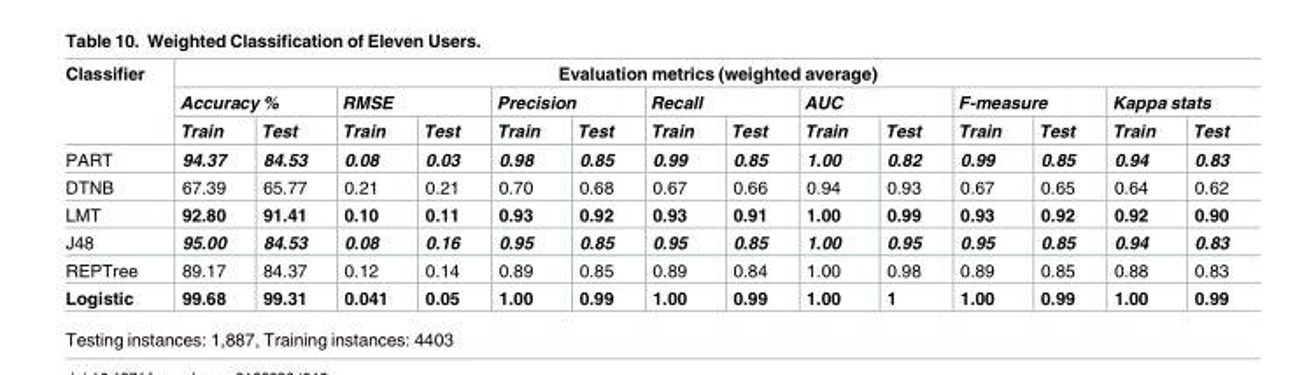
<table><thead><tr><td rowspan="3">Classifier</td><td colspan="14">Evaluation metrics (weighted average)</td></tr><tr><td colspan="2">Accuracy %</td><td colspan="2">RMSE</td><td colspan="2">Precision</td><td colspan="2">Recall</td><td colspan="2">AUC</td><td colspan="2">F-measure</td><td colspan="2">Kappa stats</td></tr><tr><td>Train</td><td>Test</td><td>Train</td><td>Test</td><td>Train</td><td>Test</td><td>Train</td><td>Test</td><td>Train</td><td>Test</td><td>Train</td><td>Test</td><td>Train</td><td>Test</td></tr></thead><tbody><tr><td>PART</td><td>94.37</td><td>84.53</td><td>0.08</td><td>0.03</td><td>0.98</td><td>0.85</td><td>0.99</td><td>0.85</td><td>1.00</td><td>0.82</td><td>0.99</td><td>0.85</td><td>0.94</td><td>0.83</td></tr><tr><td>DTNB</td><td>67.39</td><td>65.77</td><td>0.21</td><td>0.21</td><td>0.70</td><td>0.68</td><td>0.67</td><td>0.66</td><td>0.94</td><td>0.93</td><td>0.67</td><td>0.65</td><td>0.64</td><td>0.62</td></tr><tr><td>LMT</td><td>92.80</td><td>91.41</td><td>0.10</td><td>0.11</td><td>0.93</td><td>0.92</td><td>0.93</td><td>0.91</td><td>1.00</td><td>0.99</td><td>0.93</td><td>0.92</td><td>0.92</td><td>0.90</td></tr><tr><td>J48</td><td>95.00</td><td>84.53</td><td>0.08</td><td>0.16</td><td>0.95</td><td>0.85</td><td>0.95</td><td>0.85</td><td>1.00</td><td>0.95</td><td>0.95</td><td>0.85</td><td>0.94</td><td>0.83</td></tr><tr><td>REPTree</td><td>89.17</td><td>84.37</td><td>0.12</td><td>0.14</td><td>0.89</td><td>0.85</td><td>0.89</td><td>0.84</td><td>1.00</td><td>0.98</td><td>0.89</td><td>0.85</td><td>0.88</td><td>0.83</td></tr><tr><td>Logistic</td><td>99.68</td><td>99.31</td><td>0.041</td><td>0.05</td><td>1.00</td><td>0.99</td><td>1.00</td><td>0.99</td><td>1.00</td><td>1</td><td>1.00</td><td>0.99</td><td>1.00</td><td>0.99</td></tr></tbody></table>